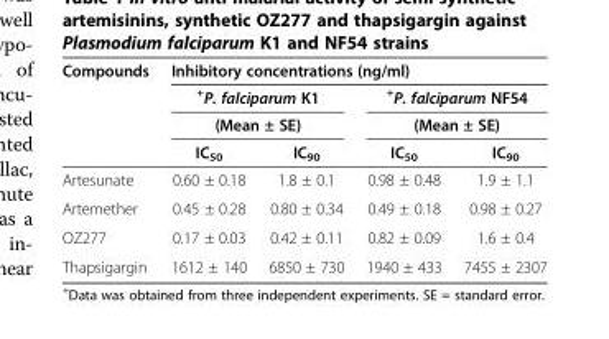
<table><thead><tr><td rowspan="4">Compounds</td><td colspan="4">Inhibitory concentrations (ng/ml)</td></tr><tr><td rowspan="2" colspan="2"><sup>+</sup>P. falciparum K1 (Mean ± SE)</td><td rowspan="2" colspan="2"><sup>+</sup>P. falciparum NF54 (Mean ± SE)</td></tr><tr></tr><tr><td>IC<sub>50</sub></td><td>IC<sub>90</sub></td><td>IC<sub>50</sub></td><td>IC<sub>90</sub></td></tr></thead><tbody><tr><td>Artesunate</td><td>0.60 ± 0.18</td><td>1.8 ± 0.1</td><td>0.98 ± 0.48</td><td>1.9 ± 1.1</td></tr><tr><td>Artemether</td><td>0.45 ± 0.28</td><td>0.80 ± 0.34</td><td>0.49 ± 0.18</td><td>0.98 ± 0.27</td></tr><tr><td>OZ277</td><td>0.17 ± 0.03</td><td>0.42 ± 0.11</td><td>0.82 ± 0.09</td><td>1.6 ± 0.4</td></tr><tr><td>Thapsigargin</td><td>1612 ± 140</td><td>6850 ± 730</td><td>1940 ± 433</td><td>7455 ± 2307</td></tr></tbody></table>